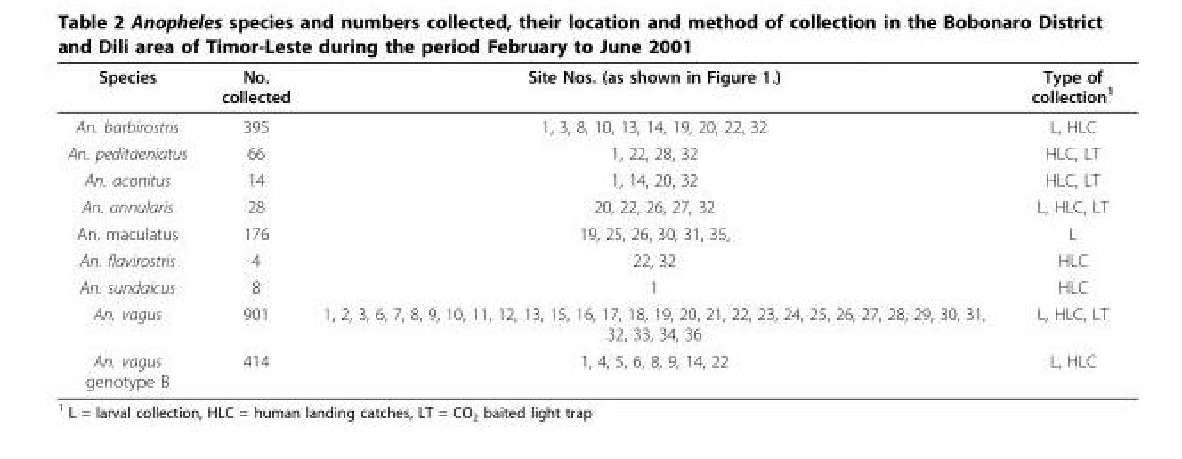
<table><thead><tr><td>Species</td><td>No. collected</td><td>Site Nos. (as shown in Figure 1.)</td><td>Type of collection<sup>1</sup></td></tr></thead><tbody><tr><td>An. barbirostris</td><td>395</td><td>1, 3, 8, 10, 13, 14, 19, 20, 22, 32</td><td>L, HLC</td></tr><tr><td>An. peditaeniatus</td><td>66</td><td>1, 22, 28, 32</td><td>HLC, LT</td></tr><tr><td>An. aconitus</td><td>14</td><td>1, 14, 20, 32</td><td>HLC, LT</td></tr><tr><td>An. annularis</td><td>28</td><td>20, 22, 26, 27, 32</td><td>L, HLC, LT</td></tr><tr><td>An. maculatus</td><td>176</td><td>19, 25, 26, 30, 31, 35,</td><td>L</td></tr><tr><td>An. flavirostris</td><td>4</td><td>22, 32</td><td>HLC</td></tr><tr><td>An. sundaicus</td><td>8</td><td>1</td><td>HLC</td></tr><tr><td>An. vagus</td><td>901</td><td>1, 2, 3, 6, 7, 8, 9, 10, 11, 12, 13, 15, 16, 17, 18, 19, 20, 21, 22, 23, 24, 25, 26, 27, 28, 29, 30, 31, 32, 33, 34, 36</td><td>L, HLC, LT</td></tr><tr><td>An. vagus genotype B</td><td>414</td><td>1, 4, 5, 6, 8, 9, 14, 22</td><td>L, HLC</td></tr></tbody></table>